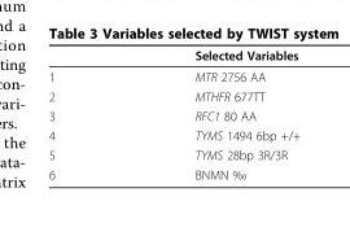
<table><thead><tr><td></td><td>Selected Variables</td></tr></thead><tbody><tr><td>1</td><td>MTR 2756 AA</td></tr><tr><td>2</td><td>MTHFR 677TT</td></tr><tr><td>3</td><td>RFC1 80 AA</td></tr><tr><td>4</td><td>TYMS 1494 6bp +/+</td></tr><tr><td>5</td><td>TYMS 28bp 3R/3R</td></tr><tr><td>6</td><td>BNMN ‰</td></tr></tbody></table>